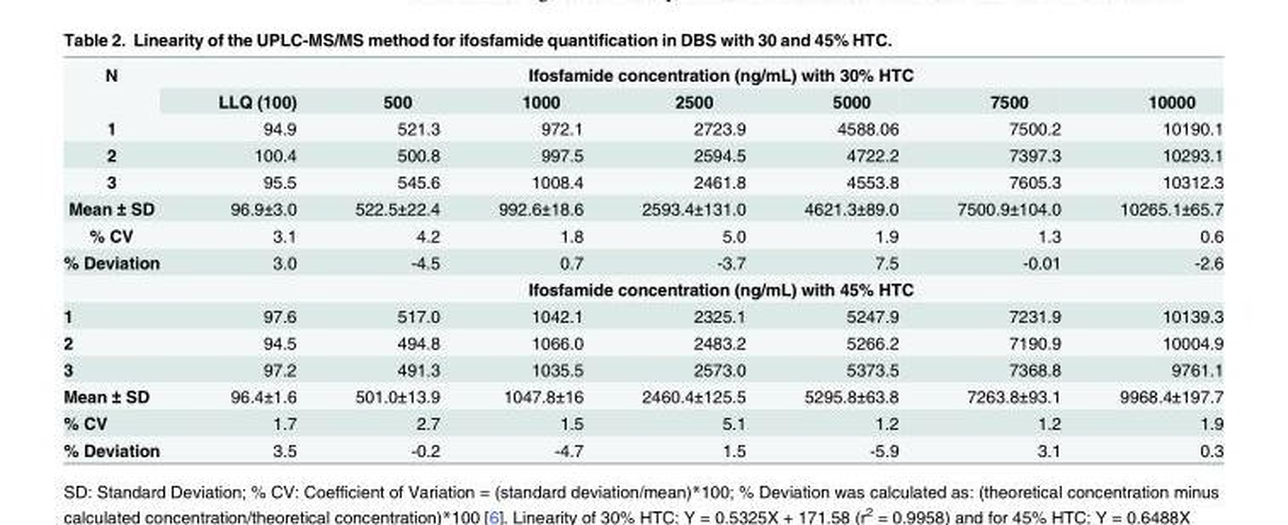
<table><tbody><tr><td rowspan="2">N</td><td colspan="7">Ifosfamide concentration (ng/mL) with 30% HTC</td></tr><tr><td>LLQ (100)</td><td>500</td><td>1000</td><td>2500</td><td>5000</td><td>7500</td><td>10000</td></tr><tr><td>1</td><td>94.9</td><td>521.3</td><td>972.1</td><td>2723.9</td><td>4588.06</td><td>7500.2</td><td>10190.1</td></tr><tr><td>2</td><td>100.4</td><td>500.8</td><td>997.5</td><td>2594.5</td><td>4722.2</td><td>7397.3</td><td>10293.1</td></tr><tr><td>3</td><td>95.5</td><td>545.6</td><td>1008.4</td><td>2461.8</td><td>4553.8</td><td>7605.3</td><td>10312.3</td></tr><tr><td>Mean ± SD</td><td>96.9±3.0</td><td>522.5±22.4</td><td>992.6±18.6</td><td>2593.4±131.0</td><td>4621.3±89.0</td><td>7500.9±104.0</td><td>10265.1±65.7</td></tr><tr><td>% CV</td><td>3.1</td><td>4.2</td><td>1.8</td><td>5.0</td><td>1.9</td><td>1.3</td><td>0.6</td></tr><tr><td rowspan="2">% Deviation</td><td>3.0</td><td>-4.5</td><td>0.7</td><td>-3.7</td><td>7.5</td><td>-0.01</td><td>-2.6</td></tr><tr><td colspan="7">Ifosfamide concentration (ng/mL) with 45% HTC</td></tr><tr><td>1</td><td>97.6</td><td>517.0</td><td>1042.1</td><td>2325.1</td><td>5247.9</td><td>7231.9</td><td>10139.3</td></tr><tr><td>2</td><td>94.5</td><td>494.8</td><td>1066.0</td><td>2483.2</td><td>5266.2</td><td>7190.9</td><td>10004.9</td></tr><tr><td>3</td><td>97.2</td><td>491.3</td><td>1035.5</td><td>2573.0</td><td>5373.5</td><td>7368.8</td><td>9761.1</td></tr><tr><td>Mean ± SD</td><td>96.4±1.6</td><td>501.0±13.9</td><td>1047.8±16</td><td>2460.4±125.5</td><td>5295.8±63.8</td><td>7263.8±93.1</td><td>9968.4±197.7</td></tr><tr><td>% CV</td><td>1.7</td><td>2.7</td><td>1.5</td><td>5.1</td><td>1.2</td><td>1.2</td><td>1.9</td></tr><tr><td>% Deviation</td><td>3.5</td><td>-0.2</td><td>-4.7</td><td>1.5</td><td>-5.9</td><td>3.1</td><td>0.3</td></tr></tbody></table>